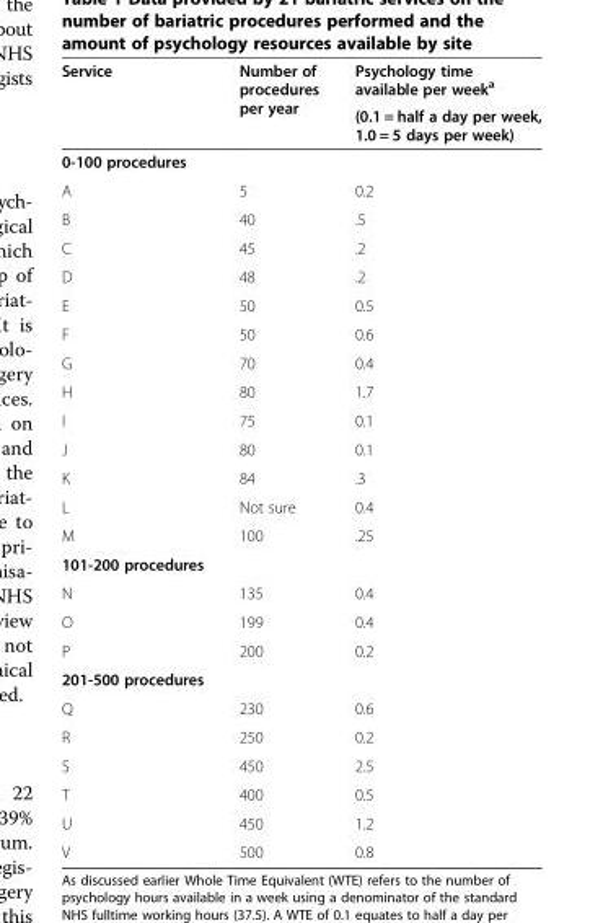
<table><thead><tr><td rowspan="2">Service</td><td rowspan="2">Number of procedures per year</td><td rowspan="2">Psychology time available per week<sup>a</sup> (0.1 = half a day per week, 1.0 = 5 days per week)</td></tr><tr></tr></thead><tbody><tr><td colspan="3">0-100 procedures</td></tr><tr><td>A</td><td>5</td><td>0.2</td></tr><tr><td>B</td><td>40</td><td>.5</td></tr><tr><td>C</td><td>45</td><td>.2</td></tr><tr><td>D</td><td>48</td><td>.2</td></tr><tr><td>E</td><td>50</td><td>0.5</td></tr><tr><td>F</td><td>50</td><td>0.6</td></tr><tr><td>G</td><td>70</td><td>0.4</td></tr><tr><td>H</td><td>80</td><td>1.7</td></tr><tr><td>I</td><td>75</td><td>0.1</td></tr><tr><td>J</td><td>80</td><td>0.1</td></tr><tr><td>K</td><td>84</td><td>.3</td></tr><tr><td>L</td><td>Not sure</td><td>0.4</td></tr><tr><td>M</td><td>100</td><td>.25</td></tr><tr><td colspan="3">101-200 procedures</td></tr><tr><td>N</td><td>135</td><td>0.4</td></tr><tr><td>O</td><td>199</td><td>0.4</td></tr><tr><td>P</td><td>200</td><td>0.2</td></tr><tr><td colspan="3">201-500 procedures</td></tr><tr><td>Q</td><td>230</td><td>0.6</td></tr><tr><td>R</td><td>250</td><td>0.2</td></tr><tr><td>S</td><td>450</td><td>2.5</td></tr><tr><td>T</td><td>400</td><td>0.5</td></tr><tr><td>U</td><td>450</td><td>1.2</td></tr><tr><td>V</td><td>500</td><td>0.8</td></tr></tbody></table>